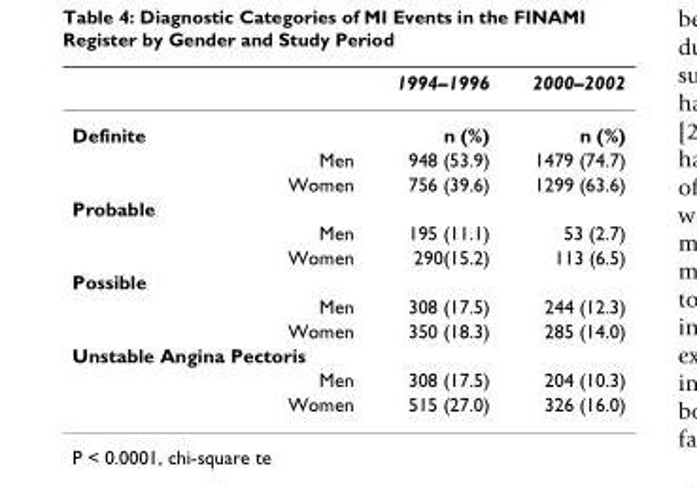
<table><thead><tr><td></td><td>1994–1996</td><td>2000–2002</td></tr></thead><tbody><tr><td>Definite</td><td>n (%)</td><td>n (%)</td></tr><tr><td>Men</td><td>948 (53.9)</td><td>1479 (74.7)</td></tr><tr><td>Women</td><td>756 (39.6)</td><td>1299 (63.6)</td></tr><tr><td colspan="3">Probable</td></tr><tr><td>Men</td><td>195 (11.1)</td><td>53 (2.7)</td></tr><tr><td>Women</td><td>290(15.2)</td><td>113 (6.5)</td></tr><tr><td colspan="3">Possible</td></tr><tr><td>Men</td><td>308 (17.5)</td><td>244 (12.3)</td></tr><tr><td>Women</td><td>350 (18.3)</td><td>285 (14.0)</td></tr><tr><td colspan="3">Unstable Angina Pectoris</td></tr><tr><td>Men</td><td>308 (17.5)</td><td>204 (10.3)</td></tr><tr><td>Women</td><td>515 (27.0)</td><td>326 (16.0)</td></tr></tbody></table>